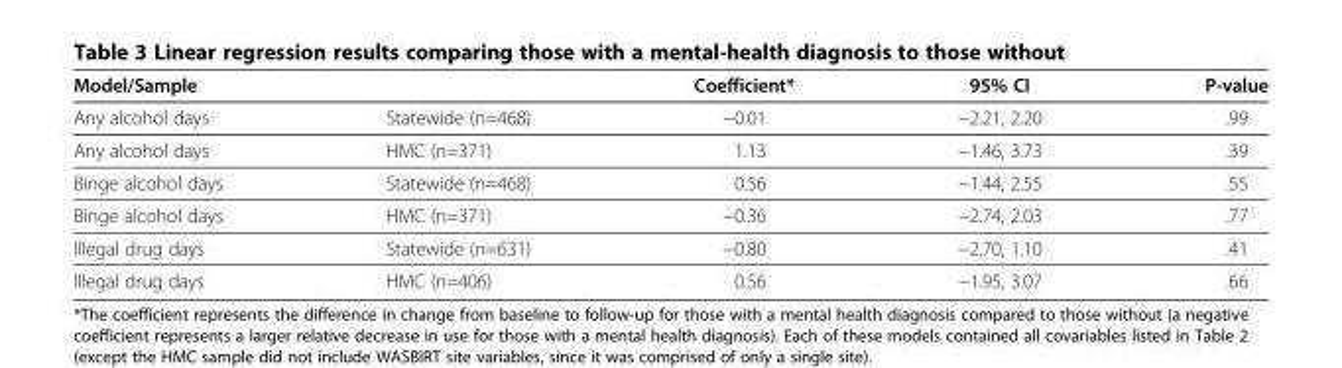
<table><thead><tr><td colspan="2">Model/Sample</td><td rowspan="2">Coefficient* −0.01</td><td rowspan="2">95% CI −2.21, 2.20</td><td rowspan="2">P-value .99</td></tr><tr><td>Any alcohol days</td><td>Statewide (n=468)</td></tr></thead><tbody><tr><td>Any alcohol days</td><td>HMC (n=371)</td><td>1.13</td><td>−1.46, 3.73</td><td>.39</td></tr><tr><td>Binge alcohol days</td><td>Statewide (n=468)</td><td>0.56</td><td>−1.44, 2.55</td><td>.55</td></tr><tr><td>Binge alcohol days</td><td>HMC (n=371)</td><td>−0.36</td><td>−2.74, 2.03</td><td>.77</td></tr><tr><td>Illegal drug days</td><td>Statewide (n=631)</td><td>−0.80</td><td>−2.70, 1.10</td><td>.41</td></tr><tr><td>Illegal drug days</td><td>HMC (n=406)</td><td>0.56</td><td>−1.95, 3.07</td><td>.66</td></tr></tbody></table>